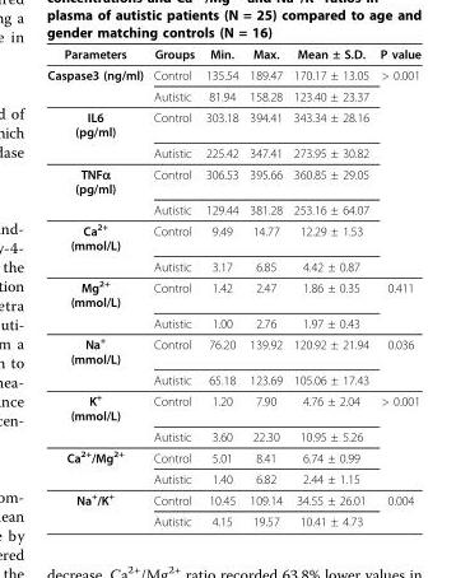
<table><thead><tr><td>Parameters</td><td>Groups</td><td>Min.</td><td>Max.</td><td>Mean ± S.D.</td><td>P value</td></tr></thead><tbody><tr><td rowspan="2">Caspase3 (ng/ml)</td><td>Control</td><td>135.54</td><td>189.47</td><td>170.17 ± 13.05</td><td>&gt; 0.001</td></tr><tr><td>Autistic</td><td>81.94</td><td>158.28</td><td>123.40 ± 23.37</td><td></td></tr><tr><td rowspan="2">IL6 (pg/ml)</td><td>Control</td><td>303.18</td><td>394.41</td><td>343.34 ± 28.16</td><td></td></tr><tr><td>Autistic</td><td>225.42</td><td>347.41</td><td>273.95 ± 30.82</td><td></td></tr><tr><td rowspan="2">TNFα (pg/ml)</td><td>Control</td><td>306.53</td><td>395.66</td><td>360.85 ± 29.05</td><td></td></tr><tr><td>Autistic</td><td>129.44</td><td>381.28</td><td>253.16 ± 64.07</td><td></td></tr><tr><td rowspan="2">Ca<sup>2+</sup> (mmol/L)</td><td>Control</td><td>9.49</td><td>14.77</td><td>12.29 ± 1.53</td><td></td></tr><tr><td>Autistic</td><td>3.17</td><td>6.85</td><td>4.42 ± 0.87</td><td></td></tr><tr><td rowspan="2">Mg<sup>2+</sup> (mmol/L)</td><td>Control</td><td>1.42</td><td>2.47</td><td>1.86 ± 0.35</td><td>0.411</td></tr><tr><td>Autistic</td><td>1.00</td><td>2.76</td><td>1.97 ± 0.43</td><td></td></tr><tr><td rowspan="2">Na<sup>+</sup> (mmol/L)</td><td>Control</td><td>76.20</td><td>139.92</td><td>120.92 ± 21.94</td><td>0.036</td></tr><tr><td>Autistic</td><td>65.18</td><td>123.69</td><td>105.06 ± 17.43</td><td></td></tr><tr><td rowspan="2">K<sup>+</sup> (mmol/L)</td><td>Control</td><td>1.20</td><td>7.90</td><td>4.76 ± 2.04</td><td>&gt; 0.001</td></tr><tr><td>Autistic</td><td>3.60</td><td>22.30</td><td>10.95 ± 5.26</td><td></td></tr><tr><td rowspan="2">Ca<sup>2+</sup>/Mg<sup>2+</sup></td><td>Control</td><td>5.01</td><td>8.41</td><td>6.74 ± 0.99</td><td></td></tr><tr><td>Autistic</td><td>1.40</td><td>6.82</td><td>2.44 ± 1.15</td><td></td></tr><tr><td rowspan="2">Na<sup>+</sup>/K<sup>+</sup></td><td>Control</td><td>10.45</td><td>109.14</td><td>34.55 ± 26.01</td><td>0.004</td></tr><tr><td>Autistic</td><td>4.15</td><td>19.57</td><td>10.41 ± 4.73</td><td></td></tr></tbody></table>